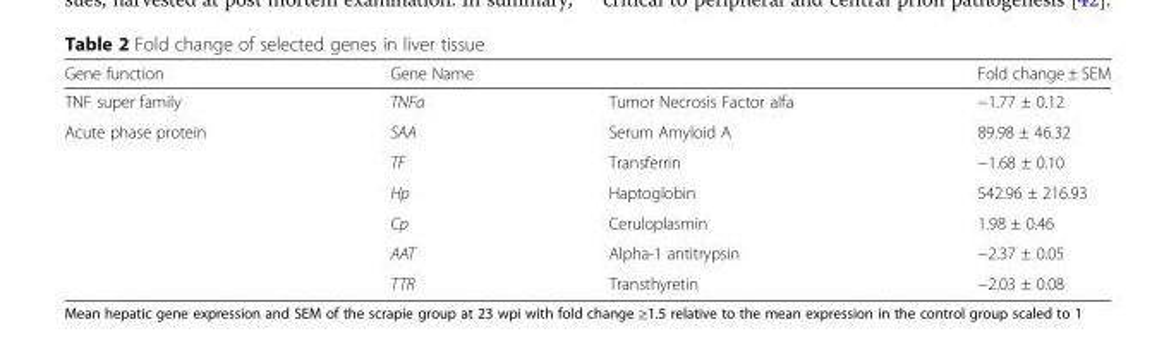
<table><thead><tr><td rowspan="2">Gene function TNF super family</td><td colspan="2">Gene Name</td><td rowspan="2">Fold change ± SEM −1.77 ± 0.12</td></tr><tr><td>TNFa</td><td>Tumor Necrosis Factor alfa</td></tr></thead><tbody><tr><td rowspan="6">Acute phase protein</td><td>SAA</td><td>Serum Amyloid A</td><td>89.98 ± 46.32</td></tr><tr><td>TF</td><td>Transferrin</td><td>−1.68 ± 0.10</td></tr><tr><td>Hp</td><td>Haptoglobin</td><td>542.96 ± 216.93</td></tr><tr><td>Cp</td><td>Ceruloplasmin</td><td>1.98 ± 0.46</td></tr><tr><td>AAT</td><td>Alpha-1 antitrypsin</td><td>−2.37 ± 0.05</td></tr><tr><td>TTR</td><td>Transthyretin</td><td>−2.03 ± 0.08</td></tr></tbody></table>